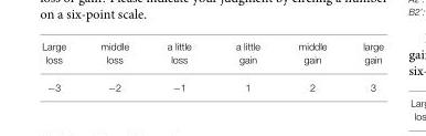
<table><thead><tr><td>Large loss</td><td>middle loss</td><td>a little loss</td><td>a little gain</td><td>middle gain</td><td>large gain</td></tr></thead><tbody><tr><td>−3</td><td>−2</td><td>−1</td><td>1</td><td>2</td><td>3</td></tr></tbody></table>